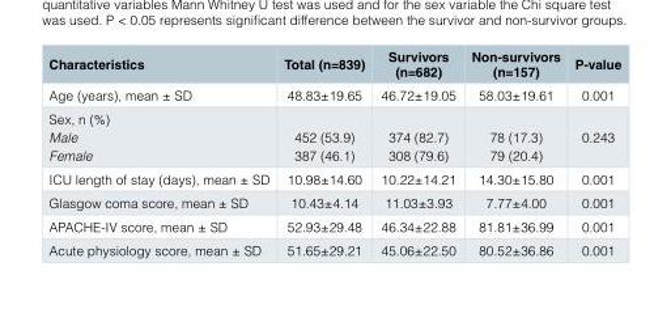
<table><thead><tr><td>Characteristics</td><td>Total (n=839)</td><td>Survivors (n=682)</td><td>Non-survivors (n=157)</td><td>P-value</td></tr></thead><tbody><tr><td>Age (years), mean ± SD</td><td>48.83±19.65</td><td>46.72±19.05</td><td>58.03±19.61</td><td>0.001</td></tr><tr><td>Sex, n (%) Male Female</td><td>452 (53.9) 387 (46.1)</td><td>374 (82.7) 308 (79.6)</td><td>78 (17.3) 79 (20.4)</td><td>0.243</td></tr><tr><td>ICU length of stay (days), mean ± SD</td><td>10.98±14.60</td><td>10.22±14.21</td><td>14.30±15.80</td><td>0.001</td></tr><tr><td>Glasgow coma score, mean ± SD</td><td>10.43±4.14</td><td>11.03±3.93</td><td>7.77±4.00</td><td>0.001</td></tr><tr><td>APACHE-IV score, mean ± SD</td><td>52.93±29.48</td><td>46.34±22.88</td><td>81.81±36.99</td><td>0.001</td></tr><tr><td>Acute physiology score, mean ± SD</td><td>51.65±29.21</td><td>45.06±22.50</td><td>80.52±36.86</td><td>0.001</td></tr></tbody></table>